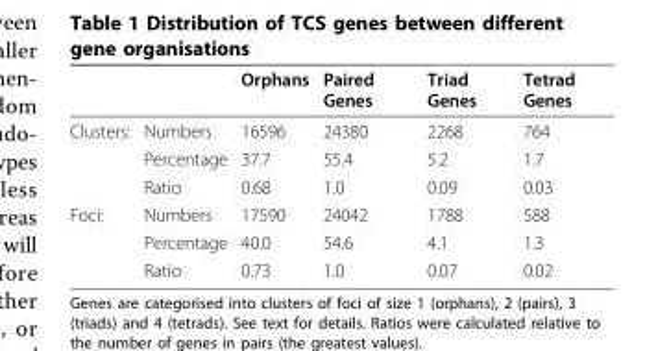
<table><thead><tr><td></td><td></td><td>Orphans</td><td>Paired Genes</td><td>Triad Genes</td><td>Tetrad Genes</td></tr></thead><tbody><tr><td rowspan="3">Clusters:</td><td>Numbers</td><td>16596</td><td>24380</td><td>2268</td><td>764</td></tr><tr><td>Percentage</td><td>37.7</td><td>55.4</td><td>5.2</td><td>1.7</td></tr><tr><td>Ratio</td><td>0.68</td><td>1.0</td><td>0.09</td><td>0.03</td></tr><tr><td rowspan="3">Foci:</td><td>Numbers</td><td>17590</td><td>24042</td><td>1788</td><td>588</td></tr><tr><td>Percentage</td><td>40.0</td><td>54.6</td><td>4.1</td><td>1.3</td></tr><tr><td>Ratio</td><td>0.73</td><td>1.0</td><td>0.07</td><td>0.02</td></tr></tbody></table>